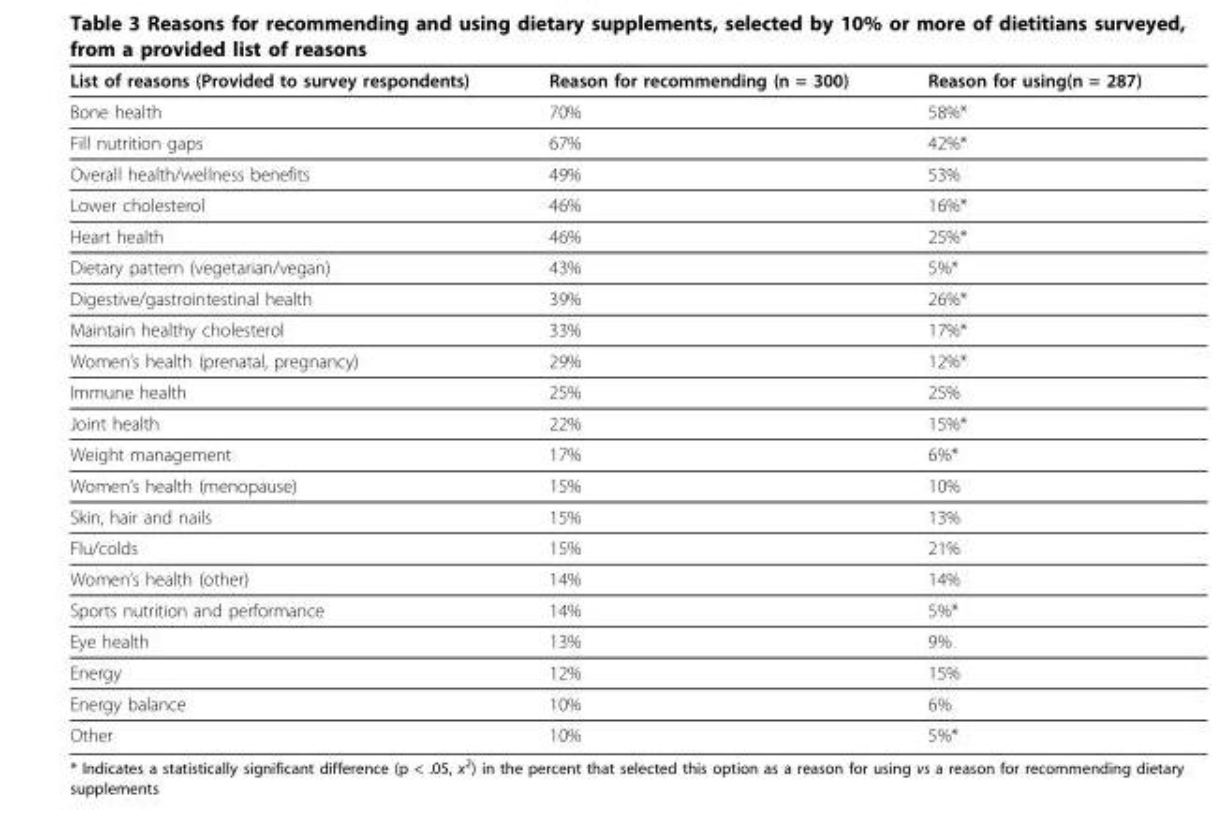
<table><thead><tr><td>List of reasons (Provided to survey respondents)</td><td>Reason for recommending (n = 300)</td><td>Reason for using(n = 287)</td></tr></thead><tbody><tr><td>Bone health</td><td>70%</td><td>58%*</td></tr><tr><td>Fill nutrition gaps</td><td>67%</td><td>42%*</td></tr><tr><td>Overall health/wellness benefits</td><td>49%</td><td>53%</td></tr><tr><td>Lower cholesterol</td><td>46%</td><td>16%*</td></tr><tr><td>Heart health</td><td>46%</td><td>25%*</td></tr><tr><td>Dietary pattern (vegetarian/vegan)</td><td>43%</td><td>5%*</td></tr><tr><td>Digestive/gastrointestinal health</td><td>39%</td><td>26%*</td></tr><tr><td>Maintain healthy cholesterol</td><td>33%</td><td>17%*</td></tr><tr><td>Women’s health (prenatal, pregnancy)</td><td>29%</td><td>12%*</td></tr><tr><td>Immune health</td><td>25%</td><td>25%</td></tr><tr><td>Joint health</td><td>22%</td><td>15%*</td></tr><tr><td>Weight management</td><td>17%</td><td>6%*</td></tr><tr><td>Women’s health (menopause)</td><td>15%</td><td>10%</td></tr><tr><td>Skin, hair and nails</td><td>15%</td><td>13%</td></tr><tr><td>Flu/colds</td><td>15%</td><td>21%</td></tr><tr><td>Women’s health (other)</td><td>14%</td><td>14%</td></tr><tr><td>Sports nutrition and performance</td><td>14%</td><td>5%*</td></tr><tr><td>Eye health</td><td>13%</td><td>9%</td></tr><tr><td>Energy</td><td>12%</td><td>15%</td></tr><tr><td>Energy balance</td><td>10%</td><td>6%</td></tr><tr><td>Other</td><td>10%</td><td>5%*</td></tr></tbody></table>